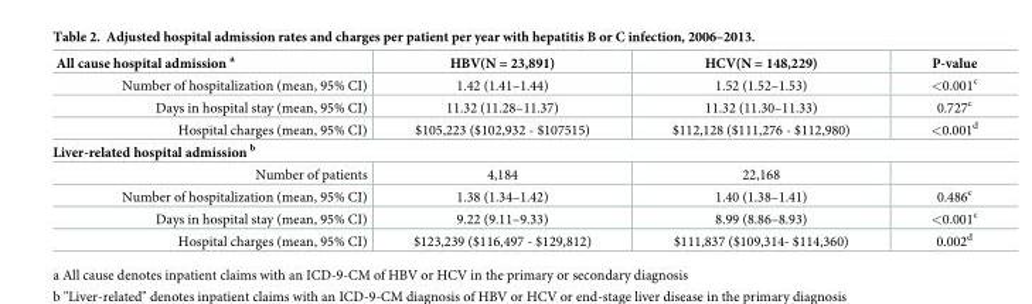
<table><thead><tr><td>All cause hospital admission <sup>a</sup></td><td>HBV(N = 23,891)</td><td>HCV(N = 148,229)</td><td>P-value</td></tr></thead><tbody><tr><td>Number of hospitalization (mean, 95% CI)</td><td>1.42 (1.41–1.44)</td><td>1.52 (1.52–1.53)</td><td>&lt;0.001<sup>c</sup></td></tr><tr><td>Days in hospital stay (mean, 95% CI)</td><td>11.32 (11.28–11.37)</td><td>11.32 (11.30–11.33)</td><td>0.727<sup>c</sup></td></tr><tr><td>Hospital charges (mean, 95% CI)</td><td>$105,223 ($102,932 - $107515)</td><td>$112,128 ($111,276 - $112,980)</td><td>&lt;0.001<sup>d</sup></td></tr><tr><td colspan="4">Liver-related hospital admission <sup>b</sup></td></tr><tr><td>Number of patients</td><td>4,184</td><td>22,168</td><td></td></tr><tr><td>Number of hospitalization (mean, 95% CI)</td><td>1.38 (1.34–1.42)</td><td>1.40 (1.38–1.41)</td><td>0.486<sup>c</sup></td></tr><tr><td>Days in hospital stay (mean, 95% CI)</td><td>9.22 (9.11–9.33)</td><td>8.99 (8.86–8.93)</td><td>&lt;0.001<sup>c</sup></td></tr><tr><td>Hospital charges (mean, 95% CI)</td><td>$123,239 ($116,497 - $129,812)</td><td>$111,837 ($109,314- $114,360)</td><td>0.002<sup>d</sup></td></tr></tbody></table>